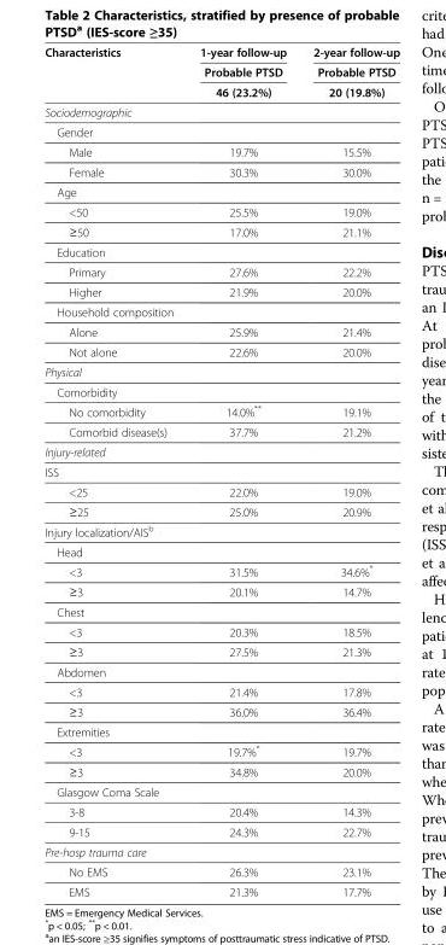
<table><thead><tr><td rowspan="3">Characteristics</td><td rowspan="3">1-year follow-up Probable PTSD 46 (23.2%)</td><td rowspan="3">2-year follow-up Probable PTSD 20 (19.8%)</td></tr><tr></tr><tr></tr></thead><tbody><tr><td colspan="3">Sociodemographic</td></tr><tr><td colspan="3">Gender</td></tr><tr><td>Male</td><td>19.7%</td><td>15.5%</td></tr><tr><td>Female</td><td>30.3%</td><td>30.0%</td></tr><tr><td colspan="3">Age</td></tr><tr><td>&lt;50</td><td>25.5%</td><td>19.0%</td></tr><tr><td>≥50</td><td>17.0%</td><td>21.1%</td></tr><tr><td colspan="3">Education</td></tr><tr><td>Primary</td><td>27.6%</td><td>22.2%</td></tr><tr><td>Higher</td><td>21.9%</td><td>20.0%</td></tr><tr><td colspan="3">Household composition</td></tr><tr><td>Alone</td><td>25.9%</td><td>21.4%</td></tr><tr><td>Not alone</td><td>22.6%</td><td>20.0%</td></tr><tr><td colspan="3">Physical</td></tr><tr><td colspan="3">Comorbidity</td></tr><tr><td>No comorbidity</td><td>14.0%**</td><td>19.1%</td></tr><tr><td>Comorbid disease(s)</td><td>37.7%</td><td>21.2%</td></tr><tr><td colspan="3">Injury-related</td></tr><tr><td colspan="3">ISS</td></tr><tr><td>&lt;25</td><td>22.0%</td><td>19.0%</td></tr><tr><td>≥25</td><td>25.0%</td><td>20.9%</td></tr><tr><td colspan="3">Injury localization/AIS<sup>b</sup></td></tr><tr><td colspan="3">Head</td></tr><tr><td>&lt;3</td><td>31.5%</td><td>34.6%*</td></tr><tr><td>≥3</td><td>20.1%</td><td>14.7%</td></tr><tr><td colspan="3">Chest</td></tr><tr><td>&lt;3</td><td>20.3%</td><td>18.5%</td></tr><tr><td>≥3</td><td>27.5%</td><td>21.3%</td></tr><tr><td colspan="3">Abdomen</td></tr><tr><td>&lt;3</td><td>21.4%</td><td>17.8%</td></tr><tr><td>≥3</td><td>36.0%</td><td>36.4%</td></tr><tr><td colspan="3">Extremities</td></tr><tr><td>&lt;3</td><td>19.7%*</td><td>19.7%</td></tr><tr><td>≥3</td><td>34.8%</td><td>20.0%</td></tr><tr><td colspan="3">Glasgow Coma Scale</td></tr><tr><td>3-8</td><td>20.4%</td><td>14.3%</td></tr><tr><td>9-15</td><td>24.3%</td><td>22.7%</td></tr><tr><td colspan="3">Pre-hosp trauma care</td></tr><tr><td>No EMS</td><td>26.3%</td><td>23.1%</td></tr><tr><td>EMS</td><td>21.3%</td><td>17.7%</td></tr></tbody></table>